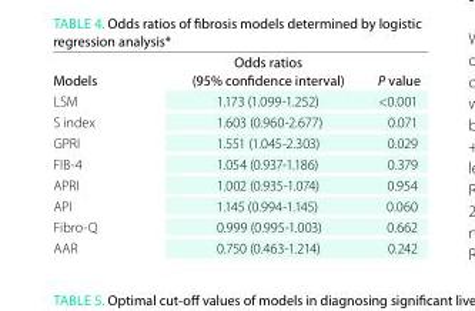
<table><thead><tr><td>Models</td><td>odds ratios (95% confidence interval)</td><td>P value</td></tr></thead><tbody><tr><td>LSM</td><td>1.173 (1.099-1.252)</td><td>&lt;0.001</td></tr><tr><td>S index</td><td>1.603 (0.960-2.677)</td><td>0.071</td></tr><tr><td>GPRI</td><td>1.551 (1.045-2.303)</td><td>0.029</td></tr><tr><td>FIB-4</td><td>1.054 (0.937-1.186)</td><td>0.379</td></tr><tr><td>APRI</td><td>1.002 (0.935-1.074)</td><td>0.954</td></tr><tr><td>API</td><td>1.145 (0.994-1.145)</td><td>0.060</td></tr><tr><td>Fibro-Q</td><td>0.999 (0.995-1.003)</td><td>0.662</td></tr><tr><td>AAR</td><td>0.750 (0.463-1.214)</td><td>0.242</td></tr></tbody></table>